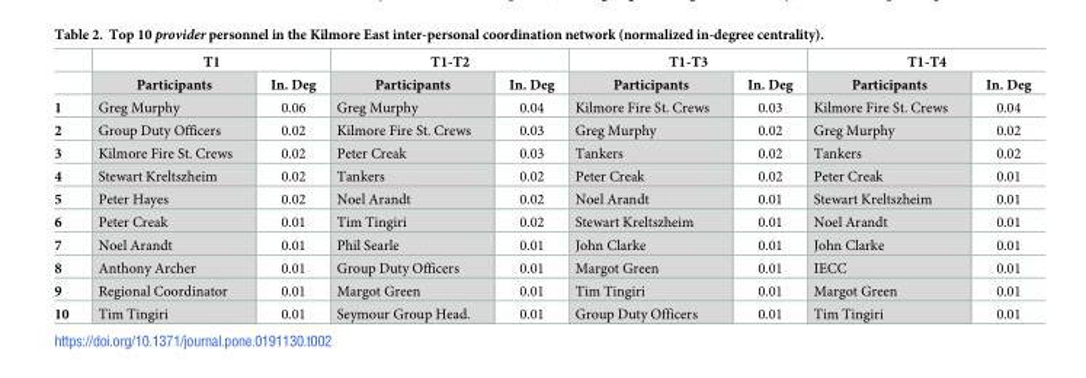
<table><thead><tr><td rowspan="2"></td><td colspan="2">T1</td><td colspan="2">T1-T2</td><td colspan="2">T1-T3</td><td colspan="2">T1-T4</td></tr><tr><td>Participants</td><td>In. Deg</td><td>Participants</td><td>In. Deg</td><td>Participants</td><td>In. Deg</td><td>Participants</td><td>In. Deg</td></tr></thead><tbody><tr><td>1</td><td>Greg Murphy</td><td>0.06</td><td>Greg Murphy</td><td>0.04</td><td>Kilmore Fire St. Crews</td><td>0.03</td><td>Kilmore Fire St. Crews</td><td>0.04</td></tr><tr><td>2</td><td>Group Duty Officers</td><td>0.02</td><td>Kilmore Fire St. Crews</td><td>0.03</td><td>Greg Murphy</td><td>0.02</td><td>Greg Murphy</td><td>0.02</td></tr><tr><td>3</td><td>Kilmore Fire St. Crews</td><td>0.02</td><td>Peter Creak</td><td>0.03</td><td>Tankers</td><td>0.02</td><td>Tankers</td><td>0.02</td></tr><tr><td>4</td><td>Stewart Kreltszheim</td><td>0.02</td><td>Tankers</td><td>0.02</td><td>Peter Creak</td><td>0.02</td><td>Peter Creak</td><td>0.01</td></tr><tr><td>5</td><td>Peter Hayes</td><td>0.02</td><td>Noel Arandt</td><td>0.02</td><td>Noel Arandt</td><td>0.01</td><td>Stewart Kreltszheim</td><td>0.01</td></tr><tr><td>6</td><td>Peter Creak</td><td>0.01</td><td>Tim Tingiri</td><td>0.02</td><td>Stewart Kreltszheim</td><td>0.01</td><td>Noel Arandt</td><td>0.01</td></tr><tr><td>7</td><td>Noel Arandt</td><td>0.01</td><td>Phil Searle</td><td>0.01</td><td>John Clarke</td><td>0.01</td><td>John Clarke</td><td>0.01</td></tr><tr><td>8</td><td>Anthony Archer</td><td>0.01</td><td>Group Duty Officers</td><td>0.01</td><td>Margot Green</td><td>0.01</td><td>IECC</td><td>0.01</td></tr><tr><td>9</td><td>Regional Coordinator</td><td>0.01</td><td>Margot Green</td><td>0.01</td><td>Tim Tingiri</td><td>0.01</td><td>Margot Green</td><td>0.01</td></tr><tr><td>10</td><td>Tim Tingiri</td><td>0.01</td><td>Seymour Group Head.</td><td>0.01</td><td>Group Duty Officers</td><td>0.01</td><td>Tim Tingiri</td><td>0.01</td></tr></tbody></table>